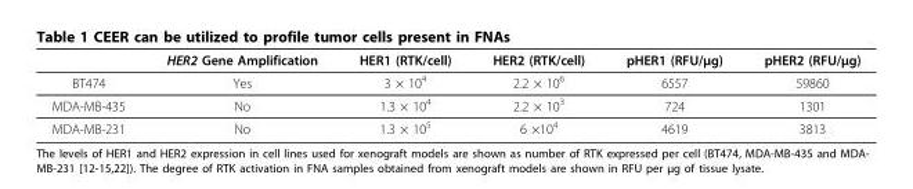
<table><thead><tr><td></td><td>HER2 Gene Amplification</td><td>HER1 (RTK/cell)</td><td>HER2 (RTK/cell)</td><td>pHER1 (RFU/μg)</td><td>pHER2 (RFU/μg)</td></tr></thead><tbody><tr><td>BT474</td><td>Yes</td><td>3 × 10<sup>4</sup></td><td>2.2 × 10<sup>6</sup></td><td>6557</td><td>59860</td></tr><tr><td>MDA-MB-435</td><td>No</td><td>1.3 × 10<sup>4</sup></td><td>2.2 × 10<sup>3</sup></td><td>724</td><td>1301</td></tr><tr><td>MDA-MB-231</td><td>No</td><td>1.3 × 10<sup>5</sup></td><td>6 ×10<sup>4</sup></td><td>4619</td><td>3813</td></tr></tbody></table>